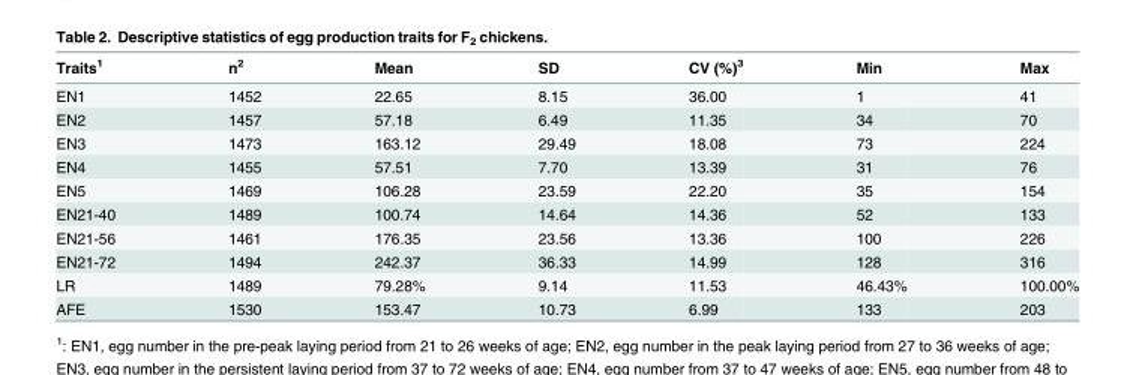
<table><thead><tr><td>Traits<sup>1</sup></td><td>n<sup>2</sup></td><td>Mean</td><td>SD</td><td>CV (%)<sup>3</sup></td><td>Min</td><td>Max</td></tr></thead><tbody><tr><td>EN1</td><td>1452</td><td>22.65</td><td>8.15</td><td>36.00</td><td>1</td><td>41</td></tr><tr><td>EN2</td><td>1457</td><td>57.18</td><td>6.49</td><td>11.35</td><td>34</td><td>70</td></tr><tr><td>EN3</td><td>1473</td><td>163.12</td><td>29.49</td><td>18.08</td><td>73</td><td>224</td></tr><tr><td>EN4</td><td>1455</td><td>57.51</td><td>7.70</td><td>13.39</td><td>31</td><td>76</td></tr><tr><td>EN5</td><td>1469</td><td>106.28</td><td>23.59</td><td>22.20</td><td>35</td><td>154</td></tr><tr><td>EN21-40</td><td>1489</td><td>100.74</td><td>14.64</td><td>14.36</td><td>52</td><td>133</td></tr><tr><td>EN21-56</td><td>1461</td><td>176.35</td><td>23.56</td><td>13.36</td><td>100</td><td>226</td></tr><tr><td>EN21-72</td><td>1494</td><td>242.37</td><td>36.33</td><td>14.99</td><td>128</td><td>316</td></tr><tr><td>LR</td><td>1489</td><td>79.28%</td><td>9.14</td><td>11.53</td><td>46.43%</td><td>100.00%</td></tr><tr><td>AFE</td><td>1530</td><td>153.47</td><td>10.73</td><td>6.99</td><td>133</td><td>203</td></tr></tbody></table>